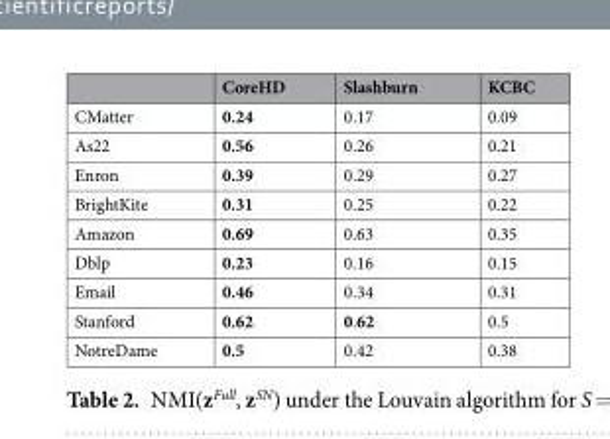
<table><thead><tr><td></td><td>CoreHD</td><td>Slashburn</td><td>KCBC</td></tr></thead><tbody><tr><td>CMatter</td><td>0.24</td><td>0.17</td><td>0.09</td></tr><tr><td>As22</td><td>0.56</td><td>0.26</td><td>0.21</td></tr><tr><td>Enron</td><td>0.39</td><td>0.29</td><td>0.27</td></tr><tr><td>BrightKite</td><td>0.31</td><td>0.25</td><td>0.22</td></tr><tr><td>Amazon</td><td>0.69</td><td>0.63</td><td>0.35</td></tr><tr><td>Dblp</td><td>0.23</td><td>0.16</td><td>0.15</td></tr><tr><td>Email</td><td>0.46</td><td>0.34</td><td>0.31</td></tr><tr><td>Stanford</td><td>0.62</td><td>0.62</td><td>0.5</td></tr><tr><td>NotreDame</td><td>0.5</td><td>0.42</td><td>0.38</td></tr></tbody></table>